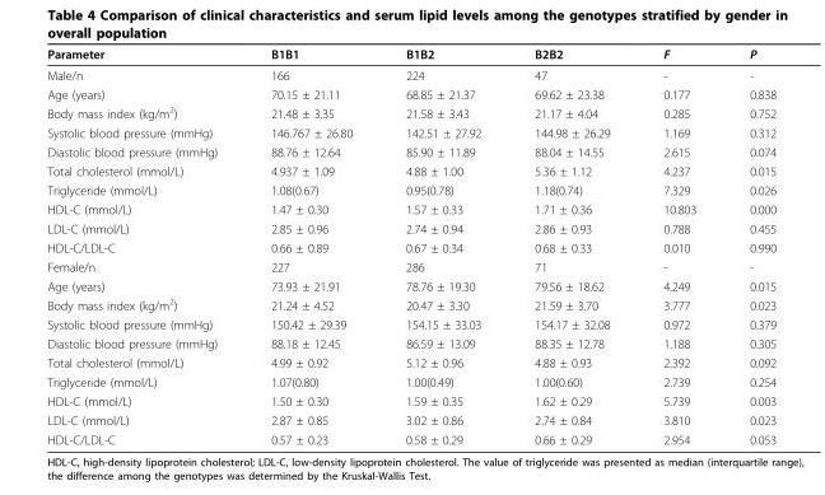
<table><thead><tr><td>Parameter</td><td>B1B1</td><td>B1B2</td><td>B2B2</td><td>F</td><td>P</td></tr></thead><tbody><tr><td>Male/n</td><td>166</td><td>224</td><td>47</td><td>-</td><td>-</td></tr><tr><td>Age (years)</td><td>70.15 ± 21.11</td><td>68.85 ± 21.37</td><td>69.62 ± 23.38</td><td>0.177</td><td>0.838</td></tr><tr><td>Body mass index (kg/m<sup>2</sup>)</td><td>21.48 ± 3.35</td><td>21.58 ± 3.43</td><td>21.17 ± 4.04</td><td>0.285</td><td>0.752</td></tr><tr><td>Systolic blood pressure (mmHg)</td><td>146.767 ± 26.80</td><td>142.51 ± 27.92</td><td>144.98 ± 26.29</td><td>1.169</td><td>0.312</td></tr><tr><td>Diastolic blood pressure (mmHg)</td><td>88.76 ± 12.64</td><td>85.90 ± 11.89</td><td>88.04 ± 14.55</td><td>2.615</td><td>0.074</td></tr><tr><td>Total cholesterol (mmol/L)</td><td>4.937 ± 1.09</td><td>4.88 ± 1.00</td><td>5.36 ± 1.12</td><td>4.237</td><td>0.015</td></tr><tr><td>Triglyceride (mmol/L)</td><td>1.08(0.67)</td><td>0.95(0.78)</td><td>1.18(0.74)</td><td>7.329</td><td>0.026</td></tr><tr><td>HDL-C (mmol/L)</td><td>1.47 ± 0.30</td><td>1.57 ± 0.33</td><td>1.71 ± 0.36</td><td>10.803</td><td>0.000</td></tr><tr><td>LDL-C (mmol/L)</td><td>2.85 ± 0.96</td><td>2.74 ± 0.94</td><td>2.86 ± 0.93</td><td>0.788</td><td>0.455</td></tr><tr><td>HDL-C/LDL-C</td><td>0.66 ± 0.89</td><td>0.67 ± 0.34</td><td>0.68 ± 0.33</td><td>0.010</td><td>0.990</td></tr><tr><td>Female/n</td><td>227</td><td>286</td><td>71</td><td>-</td><td>-</td></tr><tr><td>Age (years)</td><td>73.93 ± 21.91</td><td>78.76 ± 19.30</td><td>79.56 ± 18.62</td><td>4.249</td><td>0.015</td></tr><tr><td>Body mass index (kg/m<sup>2</sup>)</td><td>21.24 ± 4.52</td><td>20.47 ± 3.30</td><td>21.59 ± 3.70</td><td>3.777</td><td>0.023</td></tr><tr><td>Systolic blood pressure (mmHg)</td><td>150.42 ± 29.39</td><td>154.15 ± 33.03</td><td>154.17 ± 32.08</td><td>0.972</td><td>0.379</td></tr><tr><td>Diastolic blood pressure (mmHg)</td><td>88.18 ± 12.45</td><td>86.59 ± 13.09</td><td>88.35 ± 12.78</td><td>1.188</td><td>0.305</td></tr><tr><td>Total cholesterol (mmol/L)</td><td>4.99 ± 0.92</td><td>5.12 ± 0.96</td><td>4.88 ± 0.93</td><td>2.392</td><td>0.092</td></tr><tr><td>Triglyceride (mmol/L)</td><td>1.07(0.80)</td><td>1.00(0.49)</td><td>1.00(0.60)</td><td>2.739</td><td>0.254</td></tr><tr><td>HDL-C (mmol/L)</td><td>1.50 ± 0.30</td><td>1.59 ± 0.35</td><td>1.62 ± 0.29</td><td>5.739</td><td>0.003</td></tr><tr><td>LDL-C (mmol/L)</td><td>2.87 ± 0.85</td><td>3.02 ± 0.86</td><td>2.74 ± 0.84</td><td>3.810</td><td>0.023</td></tr><tr><td>HDL-C/LDL-C</td><td>0.57 ± 0.23</td><td>0.58 ± 0.29</td><td>0.66 ± 0.29</td><td>2.954</td><td>0.053</td></tr></tbody></table>